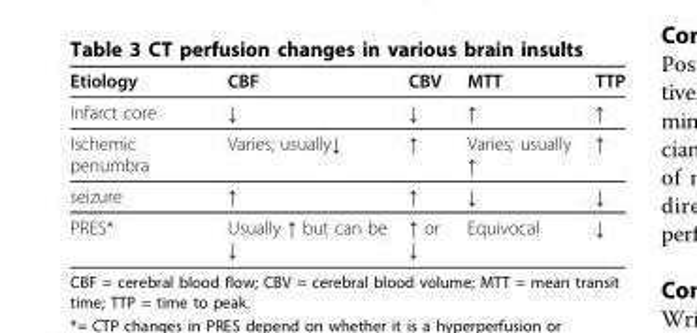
<table><thead><tr><td>Etiology</td><td>CBF</td><td>CBV</td><td>MTT</td><td>TTP</td></tr></thead><tbody><tr><td>Infarct core</td><td>↓</td><td>↓</td><td>↑</td><td>↑</td></tr><tr><td>Ischemic penumbra</td><td>Varies; usually↓</td><td>↑</td><td>Varies; usually ↑</td><td>↑</td></tr><tr><td>seizure</td><td>↑</td><td>↑</td><td>↓</td><td>↓</td></tr><tr><td>PRES*</td><td>Usually ↑ but can be ↓</td><td>↑ or ↓</td><td>Equivocal</td><td>↓</td></tr></tbody></table>